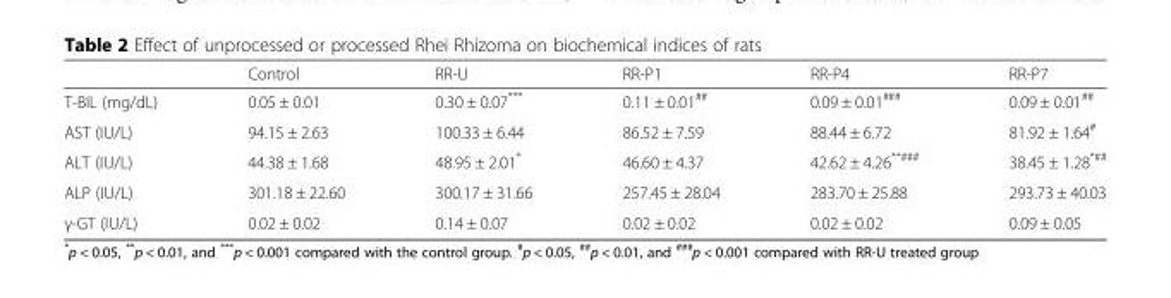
<table><thead><tr><td></td><td>Control</td><td>RR-U</td><td>RR-P1</td><td>RR-P4</td><td>RR-P7</td></tr></thead><tbody><tr><td>T-BIL (mg/dL)</td><td>0.05 ± 0.01</td><td>0.30 ± 0.07***</td><td>0.11 ± 0.01<sup>##</sup></td><td>0.09 ± 0.01<sup>###</sup></td><td>0.09 ± 0.01<sup>##</sup></td></tr><tr><td>AST (IU/L)</td><td>94.15 ± 2.63</td><td>100.33 ± 6.44</td><td>86.52 ± 7.59</td><td>88.44 ± 6.72</td><td>81.92 ± 1.64<sup>#</sup></td></tr><tr><td>ALT (IU/L)</td><td>44.38 ± 1.68</td><td>48.95 ± 2.01*</td><td>46.60 ± 4.37</td><td>42.62 ± 4.26<sup>**###</sup></td><td>38.45 ± 1.28<sup>*##</sup></td></tr><tr><td>ALP (IU/L)</td><td>301.18 ± 22.60</td><td>300.17 ± 31.66</td><td>257.45 ± 28.04</td><td>283.70 ± 25.88</td><td>293.73 ± 40.03</td></tr><tr><td>γ-GT (IU/L)</td><td>0.02 ± 0.02</td><td>0.14 ± 0.07</td><td>0.02 ± 0.02</td><td>0.02 ± 0.02</td><td>0.09 ± 0.05</td></tr></tbody></table>